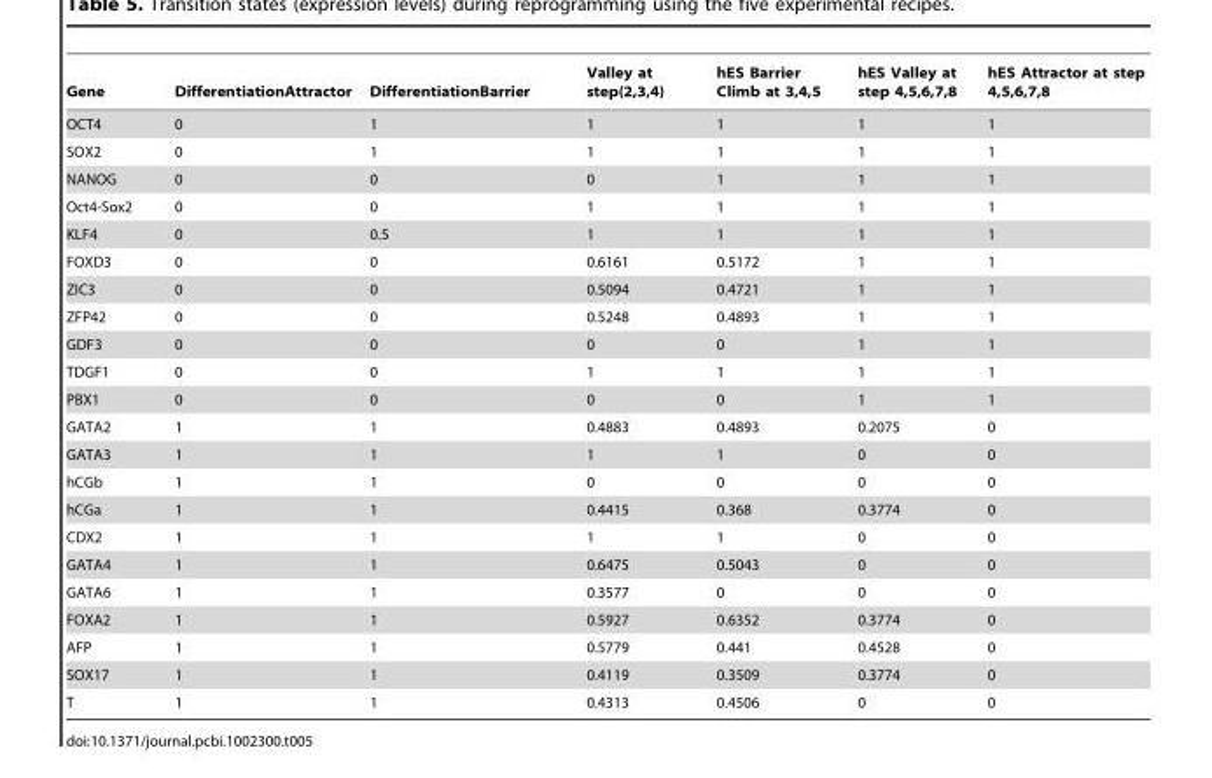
<table><thead><tr><td>Gene</td><td>DifferentiationAttractor</td><td>DifferentiationBarrier</td><td>Valley at step(2,3,4)</td><td>hES Barrier Climb at 3,4,5</td><td>hES Valley at step 4,5,6,7,8</td><td>hES Attractor at step 4,5,6,7,8</td></tr></thead><tbody><tr><td>OCT4</td><td>0</td><td>1</td><td>1</td><td>1</td><td>1</td><td>1</td></tr><tr><td>SOX2</td><td>0</td><td>1</td><td>1</td><td>1</td><td>1</td><td>1</td></tr><tr><td>NANOG</td><td>0</td><td>0</td><td>0</td><td>1</td><td>1</td><td>1</td></tr><tr><td>Oct4-Sox2</td><td>0</td><td>0</td><td>1</td><td>1</td><td>1</td><td>1</td></tr><tr><td>KLF4</td><td>0</td><td>0.5</td><td>1</td><td>1</td><td>1</td><td>1</td></tr><tr><td>FOXD3</td><td>0</td><td>0</td><td>0.6161</td><td>0.5172</td><td>1</td><td>1</td></tr><tr><td>ZIC3</td><td>0</td><td>0</td><td>0.5094</td><td>0.4721</td><td>1</td><td>1</td></tr><tr><td>ZFP42</td><td>0</td><td>0</td><td>0.5248</td><td>0.4893</td><td>1</td><td>1</td></tr><tr><td>GDF3</td><td>0</td><td>0</td><td>0</td><td>0</td><td>1</td><td>1</td></tr><tr><td>TDGF1</td><td>0</td><td>0</td><td>1</td><td>1</td><td>1</td><td>1</td></tr><tr><td>PBX1</td><td>0</td><td>0</td><td>0</td><td>0</td><td>1</td><td>1</td></tr><tr><td>GATA2</td><td>1</td><td>1</td><td>0.4883</td><td>0.4893</td><td>0.2075</td><td>0</td></tr><tr><td>GATA3</td><td>1</td><td>1</td><td>1</td><td>1</td><td>0</td><td>0</td></tr><tr><td>hCGb</td><td>1</td><td>1</td><td>0</td><td>0</td><td>0</td><td>0</td></tr><tr><td>hCGa</td><td>1</td><td>1</td><td>0.4415</td><td>0.368</td><td>0.3774</td><td>0</td></tr><tr><td>CDX2</td><td>1</td><td>1</td><td>1</td><td>1</td><td>0</td><td>0</td></tr><tr><td>GATA4</td><td>1</td><td>1</td><td>0.6475</td><td>0.5043</td><td>0</td><td>0</td></tr><tr><td>GATA6</td><td>1</td><td>1</td><td>0.3577</td><td>0</td><td>0</td><td>0</td></tr><tr><td>FOXA2</td><td>1</td><td>1</td><td>0.5927</td><td>0.6352</td><td>0.3774</td><td>0</td></tr><tr><td>AFP</td><td>1</td><td>1</td><td>0.5779</td><td>0.441</td><td>0.4528</td><td>0</td></tr><tr><td>SOX17</td><td>1</td><td>1</td><td>0.4119</td><td>0.3509</td><td>0.3774</td><td>0</td></tr><tr><td>T</td><td>1</td><td>1</td><td>0.4313</td><td>0.4506</td><td>0</td><td>0</td></tr></tbody></table>